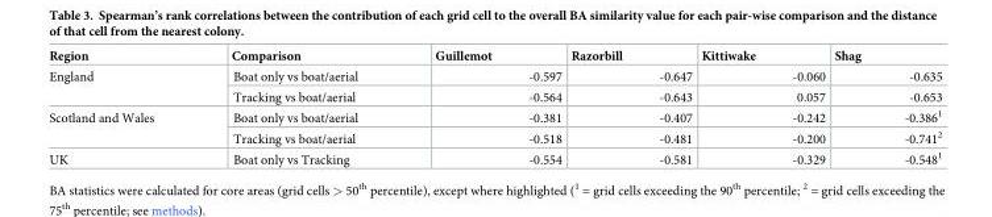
<table><thead><tr><td>Region</td><td>Comparison</td><td>Guillemot</td><td>Razorbill</td><td>Kittiwake</td><td>Shag</td></tr></thead><tbody><tr><td rowspan="2">England</td><td>Boat only vs boat/aerial</td><td>-0.597</td><td>-0.647</td><td>-0.060</td><td>-0.635</td></tr><tr><td>Tracking vs boat/aerial</td><td>-0.564</td><td>-0.643</td><td>0.057</td><td>-0.653</td></tr><tr><td rowspan="2">Scotland and Wales</td><td>Boat only vs boat/aerial</td><td>-0.381</td><td>-0.407</td><td>-0.242</td><td>-0.386<sup>1</sup></td></tr><tr><td>Tracking vs boat/aerial</td><td>-0.518</td><td>-0.481</td><td>-0.200</td><td>-0.741<sup>2</sup></td></tr><tr><td>UK</td><td>Boat only vs Tracking</td><td>-0.554</td><td>-0.581</td><td>-0.329</td><td>-0.548<sup>1</sup></td></tr></tbody></table>